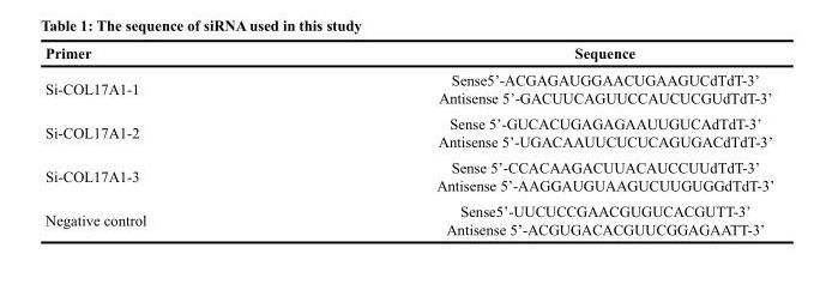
<table><thead><tr><td>Primer</td><td>Sequence</td></tr></thead><tbody><tr><td>Si-COL17A1-1</td><td>Sense5’-ACGAGAUGGAACUGAAGUCdTdT-3’ Antisense 5’-GACUUCAGUUCCAUCUCGUdTdT-3’</td></tr><tr><td>Si-COL17A1-2</td><td>Sense 5’-GUCACUGAGAGAAUUGUCAdTdT-3’ Antisense 5’-UGACAAUUCUCUCAGUGACdTdT-3’</td></tr><tr><td>Si-COL17A1-3</td><td>Sense 5’-CCACAAGACUUACAUCCUUdTdT-3’ Antisense 5’-AAGGAUGUAAGUCUUGUGGdTdT-3’</td></tr><tr><td>Negative control</td><td>Sense5’-UUCUCCGAACGUGUCACGUTT-3’ Antisense 5’-ACGUGACACGUUCGGAGAATT-3’</td></tr></tbody></table>